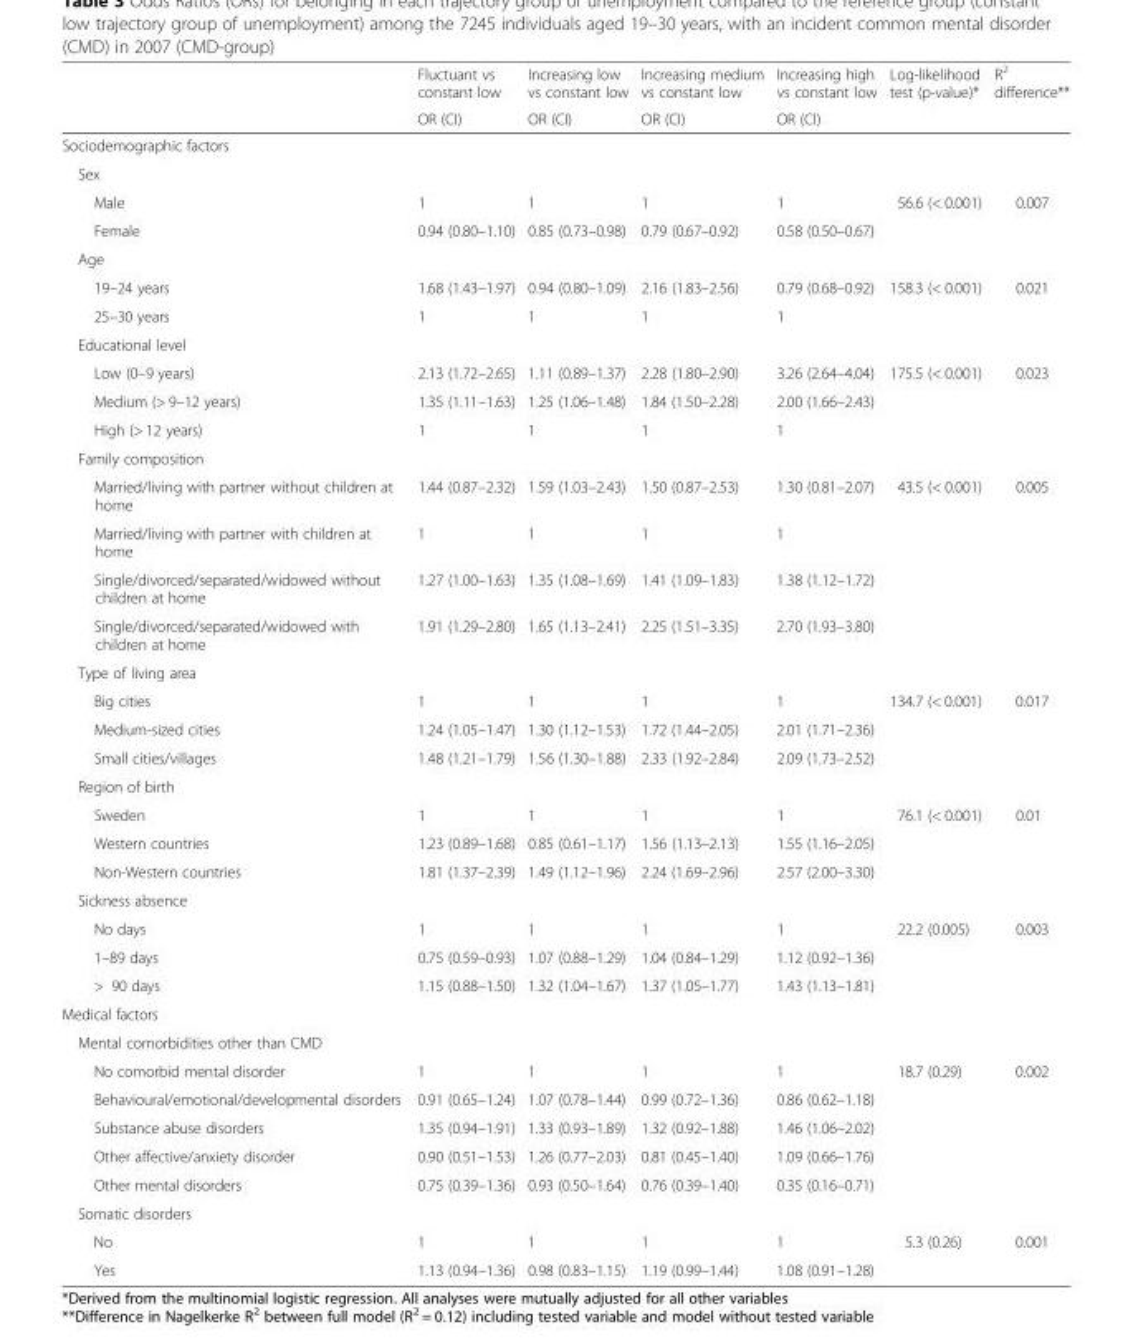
<table><thead><tr><td rowspan="2"></td><td rowspan="2">Fluctuant vs constant low OR (CI)</td><td rowspan="2">Increasing low vs constant low OR (CI)</td><td rowspan="2">Increasing medium vs constant low OR (CI)</td><td rowspan="2">Increasing high vs constant low OR (CI)</td><td rowspan="2">Log-likelihood test (p-value)*</td><td rowspan="2">R<sup>2</sup> difference**</td></tr><tr></tr></thead><tbody><tr><td colspan="7">Sociodemographic factors</td></tr><tr><td colspan="7">Sex</td></tr><tr><td>Male</td><td>1</td><td>1</td><td>1</td><td>1</td><td>56.6 (&lt; 0.001)</td><td>0.007</td></tr><tr><td>Female</td><td>0.94 (0.80–1.10)</td><td>0.85 (0.73–0.98)</td><td>0.79 (0.67–0.92)</td><td>0.58 (0.50–0.67)</td><td></td><td></td></tr><tr><td colspan="7">Age</td></tr><tr><td>19–24 years</td><td>1.68 (1.43–1.97)</td><td>0.94 (0.80–1.09)</td><td>2.16 (1.83–2.56)</td><td>0.79 (0.68–0.92)</td><td>158.3 (&lt; 0.001)</td><td>0.021</td></tr><tr><td>25–30 years</td><td>1</td><td>1</td><td>1</td><td>1</td><td></td><td></td></tr><tr><td colspan="7">Educational level</td></tr><tr><td>Low (0–9 years)</td><td>2.13 (1.72–2.65)</td><td>1.11 (0.89–1.37)</td><td>2.28 (1.80–2.90)</td><td>3.26 (2.64–4.04)</td><td>175.5 (&lt; 0.001)</td><td>0.023</td></tr><tr><td>Medium (&gt; 9–12 years)</td><td>1.35 (1.11–1.63)</td><td>1.25 (1.06–1.48)</td><td>1.84 (1.50–2.28)</td><td>2.00 (1.66–2.43)</td><td></td><td></td></tr><tr><td>High (&gt; 12 years)</td><td>1</td><td>1</td><td>1</td><td>1</td><td></td><td></td></tr><tr><td colspan="7">Family composition</td></tr><tr><td>Married/living with partner without children at home</td><td>1.44 (0.87–2.32)</td><td>1.59 (1.03–2.43)</td><td>1.50 (0.87–2.53)</td><td>1.30 (0.81–2.07)</td><td>43.5 (&lt; 0.001)</td><td>0.005</td></tr><tr><td>Married/living with partner with children at home</td><td>1</td><td>1</td><td>1</td><td>1</td><td></td><td></td></tr><tr><td>Single/divorced/separated/widowed without children at home</td><td>1.27 (1.00–1.63)</td><td>1.35 (1.08–1.69)</td><td>1.41 (1.09–1.83)</td><td>1.38 (1.12–1.72)</td><td></td><td></td></tr><tr><td>Single/divorced/separated/widowed with children at home</td><td>1.91 (1.29–2.80)</td><td>1.65 (1.13–2.41)</td><td>2.25 (1.51–3.35)</td><td>2.70 (1.93–3.80)</td><td></td><td></td></tr><tr><td colspan="7">Type of living area</td></tr><tr><td>Big cities</td><td>1</td><td>1</td><td>1</td><td>1</td><td>134.7 (&lt; 0.001)</td><td>0.017</td></tr><tr><td>Medium-sized cities</td><td>1.24 (1.05–1.47)</td><td>1.30 (1.12–1.53)</td><td>1.72 (1.44–2.05)</td><td>2.01 (1.71–2.36)</td><td></td><td></td></tr><tr><td>Small cities/villages</td><td>1.48 (1.21–1.79)</td><td>1.56 (1.30–1.88)</td><td>2.33 (1.92–2.84)</td><td>2.09 (1.73–2.52)</td><td></td><td></td></tr><tr><td colspan="7">Region of birth</td></tr><tr><td>Sweden</td><td>1</td><td>1</td><td>1</td><td>1</td><td>76.1 (&lt; 0.001)</td><td>0.01</td></tr><tr><td>Western countries</td><td>1.23 (0.89–1.68)</td><td>0.85 (0.61–1.17)</td><td>1.56 (1.13–2.13)</td><td>1.55 (1.16–2.05)</td><td></td><td></td></tr><tr><td>Non-Western countries</td><td>1.81 (1.37–2.39)</td><td>1.49 (1.12–1.96)</td><td>2.24 (1.69–2.96)</td><td>2.57 (2.00–3.30)</td><td></td><td></td></tr><tr><td colspan="7">Sickness absence</td></tr><tr><td>No days</td><td>1</td><td>1</td><td>1</td><td>1</td><td>22.2 (0.005)</td><td>0.003</td></tr><tr><td>1–89 days</td><td>0.75 (0.59–0.93)</td><td>1.07 (0.88–1.29)</td><td>1.04 (0.84–1.29)</td><td>1.12 (0.92–1.36)</td><td></td><td></td></tr><tr><td>&gt; 90 days</td><td>1.15 (0.88–1.50)</td><td>1.32 (1.04–1.67)</td><td>1.37 (1.05–1.77)</td><td>1.43 (1.13–1.81)</td><td></td><td></td></tr><tr><td colspan="7">Medical factors</td></tr><tr><td colspan="7">Mental comorbidities other than CMD</td></tr><tr><td>No comorbid mental disorder</td><td>1</td><td>1</td><td>1</td><td>1</td><td>18.7 (0.29)</td><td>0.002</td></tr><tr><td>Behavioural/emotional/developmental disorders</td><td>0.91 (0.65–1.24)</td><td>1.07 (0.78–1.44)</td><td>0.99 (0.72–1.36)</td><td>0.86 (0.62–1.18)</td><td></td><td></td></tr><tr><td>Substance abuse disorders</td><td>1.35 (0.94–1.91)</td><td>1.33 (0.93–1.89)</td><td>1.32 (0.92–1.88)</td><td>1.46 (1.06–2.02)</td><td></td><td></td></tr><tr><td>Other affective/anxiety disorder</td><td>0.90 (0.51–1.53)</td><td>1.26 (0.77–2.03)</td><td>0.81 (0.45–1.40)</td><td>1.09 (0.66–1.76)</td><td></td><td></td></tr><tr><td>Other mental disorders</td><td>0.75 (0.39–1.36)</td><td>0.93 (0.50–1.64)</td><td>0.76 (0.39–1.40)</td><td>0.35 (0.16–0.71)</td><td></td><td></td></tr><tr><td colspan="7">Somatic disorders</td></tr><tr><td>No</td><td>1</td><td>1</td><td>1</td><td>1</td><td>5.3 (0.26)</td><td>0.001</td></tr><tr><td>Yes</td><td>1.13 (0.94–1.36)</td><td>0.98 (0.83–1.15)</td><td>1.19 (0.99–1.44)</td><td>1.08 (0.91–1.28)</td><td></td><td></td></tr></tbody></table>